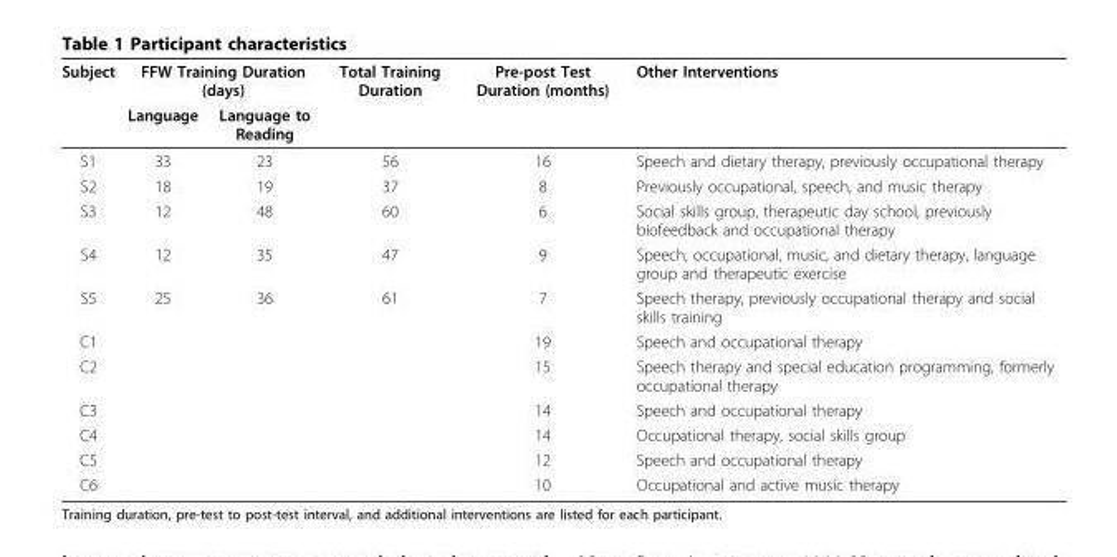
<table><thead><tr><td rowspan="2">Subject</td><td colspan="2">FFW Training Duration (days)</td><td rowspan="2">Total Training Duration</td><td rowspan="2">Pre-post Test Duration (months)</td><td rowspan="2">Other Interventions</td></tr><tr><td>Language</td><td>Language to Reading</td></tr></thead><tbody><tr><td>S1</td><td>33</td><td>23</td><td>56</td><td>16</td><td>Speech and dietary therapy, previously occupational therapy</td></tr><tr><td>S2</td><td>18</td><td>19</td><td>37</td><td>8</td><td>Previously occupational, speech, and music therapy</td></tr><tr><td>S3</td><td>12</td><td>48</td><td>60</td><td>6</td><td>Social skills group, therapeutic day school, previously biofeedback and occupational therapy</td></tr><tr><td>S4</td><td>12</td><td>35</td><td>47</td><td>9</td><td>Speech, occupational, music, and dietary therapy, language group and therapeutic exercise</td></tr><tr><td>S5</td><td>25</td><td>36</td><td>61</td><td>7</td><td>Speech therapy, previously occupational therapy and social skills training</td></tr><tr><td>C1</td><td></td><td></td><td></td><td>19</td><td>Speech and occupational therapy</td></tr><tr><td>C2</td><td></td><td></td><td></td><td>15</td><td>Speech therapy and special education programming, formerly occupational therapy</td></tr><tr><td>C3</td><td></td><td></td><td></td><td>14</td><td>Speech and occupational therapy</td></tr><tr><td>C4</td><td></td><td></td><td></td><td>14</td><td>Occupational therapy, social skills group</td></tr><tr><td>C5</td><td></td><td></td><td></td><td>12</td><td>Speech and occupational therapy</td></tr><tr><td>C6</td><td></td><td></td><td></td><td>10</td><td>Occupational and active music therapy</td></tr></tbody></table>